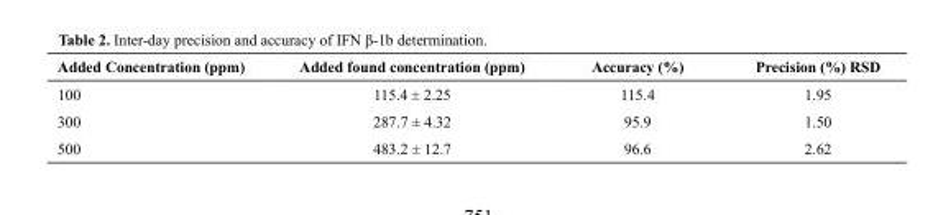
<table><thead><tr><td>Added Concentration (ppm)</td><td>Added found concentration (ppm)</td><td>Accuracy (%)</td><td>Precision (%) RSD</td></tr></thead><tbody><tr><td>100</td><td>115.4 ± 2.25</td><td>115.4</td><td>1.95</td></tr><tr><td>300</td><td>287.7 ± 4.32</td><td>95.9</td><td>1.50</td></tr><tr><td>500</td><td>483.2 ± 12.7</td><td>96.6</td><td>2.62</td></tr></tbody></table>